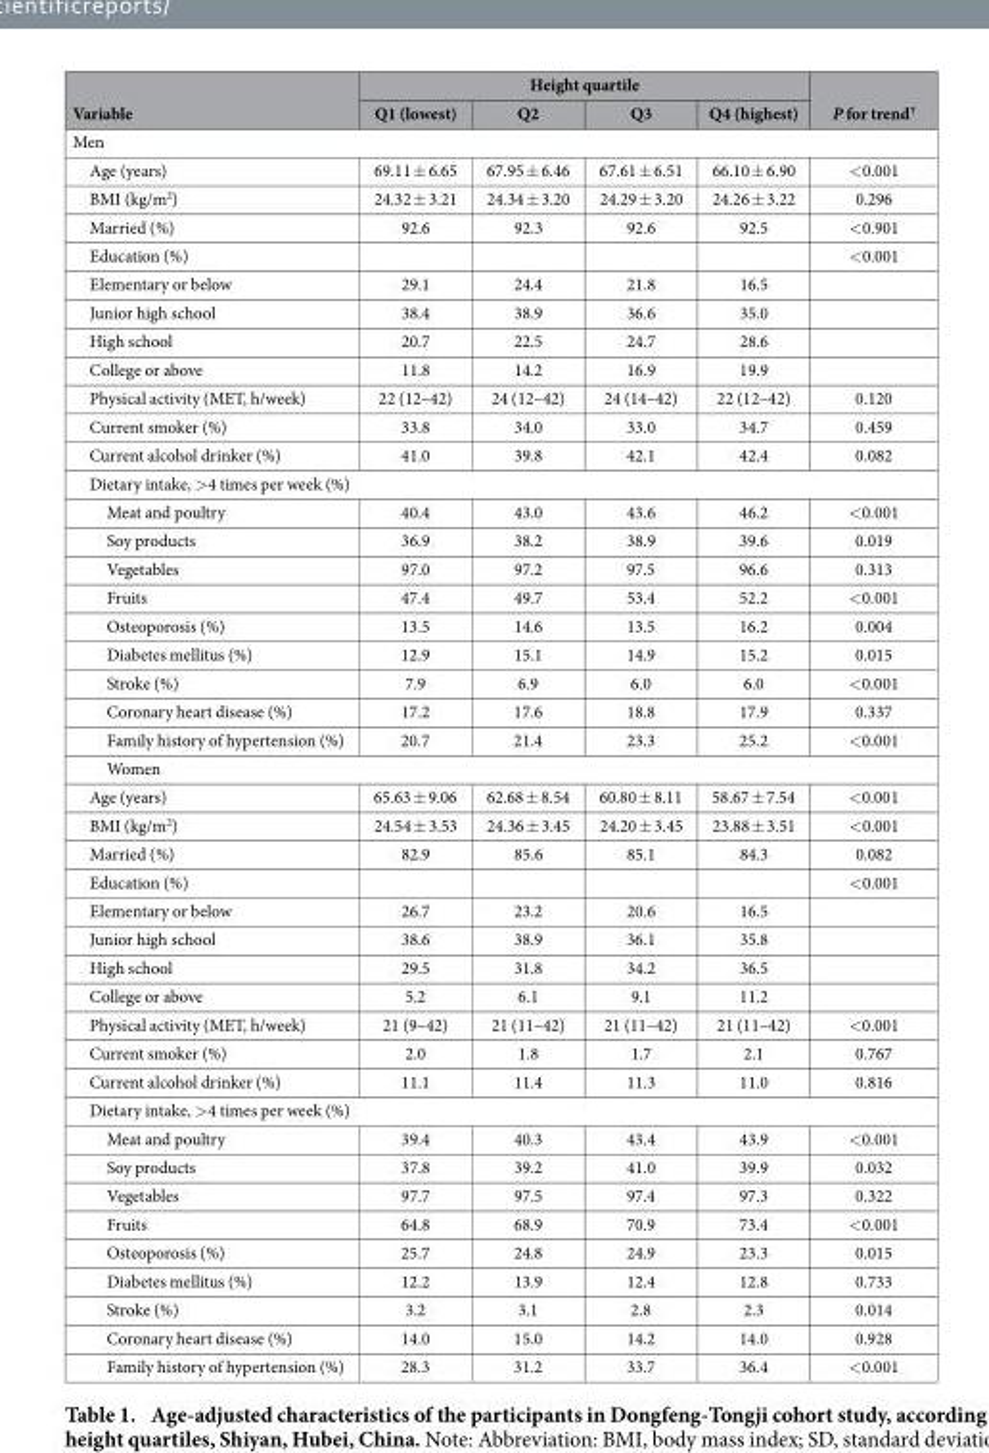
<table><thead><tr><td rowspan="2">Variable</td><td colspan="4">Height quartile</td><td rowspan="2">P for trend<sup>†</sup></td></tr><tr><td>Q1 (lowest)</td><td>Q2</td><td>Q3</td><td>Q4 (highest)</td></tr></thead><tbody><tr><td colspan="6">Men</td></tr><tr><td>Age (years)</td><td>69.11 ± 6.65</td><td>67.95 ± 6.46</td><td>67.61 ± 6.51</td><td>66.10 ± 6.90</td><td>&lt; 0.001</td></tr><tr><td>BMI (kg/m<sup>2</sup>)</td><td>24.32 ± 3.21</td><td>24.34 ± 3.20</td><td>24.29 ± 3.20</td><td>24.26 ± 3.22</td><td>0.296</td></tr><tr><td>Married (%)</td><td>92.6</td><td>92.3</td><td>92.6</td><td>92.5</td><td>&lt; 0.901</td></tr><tr><td>Education (%)</td><td></td><td></td><td></td><td></td><td>&lt; 0.001</td></tr><tr><td>Elementary or below</td><td>29.1</td><td>24.4</td><td>21.8</td><td>16.5</td><td></td></tr><tr><td>Junior high school</td><td>38.4</td><td>38.9</td><td>36.6</td><td>35.0</td><td></td></tr><tr><td>High school</td><td>20.7</td><td>22.5</td><td>24.7</td><td>28.6</td><td></td></tr><tr><td>College or above</td><td>11.8</td><td>14.2</td><td>16.9</td><td>19.9</td><td></td></tr><tr><td>Physical activity (MET, h/week)</td><td>22 (12–42)</td><td>24 (12–42)</td><td>24 (14–42)</td><td>22 (12–42)</td><td>0.120</td></tr><tr><td>Current smoker (%)</td><td>33.8</td><td>34.0</td><td>33.0</td><td>34.7</td><td>0.459</td></tr><tr><td>Current alcohol drinker (%)</td><td>41.0</td><td>39.8</td><td>42.1</td><td>42.4</td><td>0.082</td></tr><tr><td colspan="6">Dietary intake, &gt; 4 times per week (%)</td></tr><tr><td>Meat and poultry</td><td>40.4</td><td>43.0</td><td>43.6</td><td>46.2</td><td>&lt; 0.001</td></tr><tr><td>Soy products</td><td>36.9</td><td>38.2</td><td>38.9</td><td>39.6</td><td>0.019</td></tr><tr><td>Vegetables</td><td>97.0</td><td>97.2</td><td>97.5</td><td>96.6</td><td>0.313</td></tr><tr><td>Fruits</td><td>47.4</td><td>49.7</td><td>53.4</td><td>52.2</td><td>&lt; 0.001</td></tr><tr><td>Osteoporosis (%)</td><td>13.5</td><td>14.6</td><td>13.5</td><td>16.2</td><td>0.004</td></tr><tr><td>Diabetes mellitus (%)</td><td>12.9</td><td>15.1</td><td>14.9</td><td>15.2</td><td>0.015</td></tr><tr><td>Stroke (%)</td><td>7.9</td><td>6.9</td><td>6.0</td><td>6.0</td><td>&lt; 0.001</td></tr><tr><td>Coronary heart disease (%)</td><td>17.2</td><td>17.6</td><td>18.8</td><td>17.9</td><td>0.337</td></tr><tr><td>Family history of hypertension (%)</td><td>20.7</td><td>21.4</td><td>23.3</td><td>25.2</td><td>&lt; 0.001</td></tr><tr><td colspan="6">Women</td></tr><tr><td>Age (years)</td><td>65.63 ± 9.06</td><td>62.68 ± 8.54</td><td>60.80 ± 8.11</td><td>58.67 ± 7.54</td><td>&lt; 0.001</td></tr><tr><td>BMI (kg/m<sup>2</sup>)</td><td>24.54 ± 3.53</td><td>24.36 ± 3.45</td><td>24.20 ± 3.45</td><td>23.88 ± 3.51</td><td>&lt; 0.001</td></tr><tr><td>Married (%)</td><td>82.9</td><td>85.6</td><td>85.1</td><td>84.3</td><td>0.082</td></tr><tr><td>Education (%)</td><td></td><td></td><td></td><td></td><td>&lt; 0.001</td></tr><tr><td>Elementary or below</td><td>26.7</td><td>23.2</td><td>20.6</td><td>16.5</td><td></td></tr><tr><td>Junior high school</td><td>38.6</td><td>38.9</td><td>36.1</td><td>35.8</td><td></td></tr><tr><td>High school</td><td>29.5</td><td>31.8</td><td>34.2</td><td>36.5</td><td></td></tr><tr><td>College or above</td><td>5.2</td><td>6.1</td><td>9.1</td><td>11.2</td><td></td></tr><tr><td>Physical activity (MET, h/week)</td><td>21 (9–42)</td><td>21 (11–42)</td><td>21 (11–42)</td><td>21 (11–42)</td><td>&lt; 0.001</td></tr><tr><td>Current smoker (%)</td><td>2.0</td><td>1.8</td><td>1.7</td><td>2.1</td><td>0.767</td></tr><tr><td>Current alcohol drinker (%)</td><td>11.1</td><td>11.4</td><td>11.3</td><td>11.0</td><td>0.816</td></tr><tr><td colspan="6">Dietary intake, &gt; 4 times per week (%)</td></tr><tr><td>Meat and poultry</td><td>39.4</td><td>40.3</td><td>43.4</td><td>43.9</td><td>&lt; 0.001</td></tr><tr><td>Soy products</td><td>37.8</td><td>39.2</td><td>41.0</td><td>39.9</td><td>0.032</td></tr><tr><td>Vegetables</td><td>97.7</td><td>97.5</td><td>97.4</td><td>97.3</td><td>0.322</td></tr><tr><td>Fruits</td><td>64.8</td><td>68.9</td><td>70.9</td><td>73.4</td><td>&lt; 0.001</td></tr><tr><td>Osteoporosis (%)</td><td>25.7</td><td>24.8</td><td>24.9</td><td>23.3</td><td>0.015</td></tr><tr><td>Diabetes mellitus (%)</td><td>12.2</td><td>13.9</td><td>12.4</td><td>12.8</td><td>0.733</td></tr><tr><td>Stroke (%)</td><td>3.2</td><td>3.1</td><td>2.8</td><td>2.3</td><td>0.014</td></tr><tr><td>Coronary heart disease (%)</td><td>14.0</td><td>15.0</td><td>14.2</td><td>14.0</td><td>0.928</td></tr><tr><td>Family history of hypertension (%)</td><td>28.3</td><td>31.2</td><td>33.7</td><td>36.4</td><td>&lt; 0.001</td></tr></tbody></table>